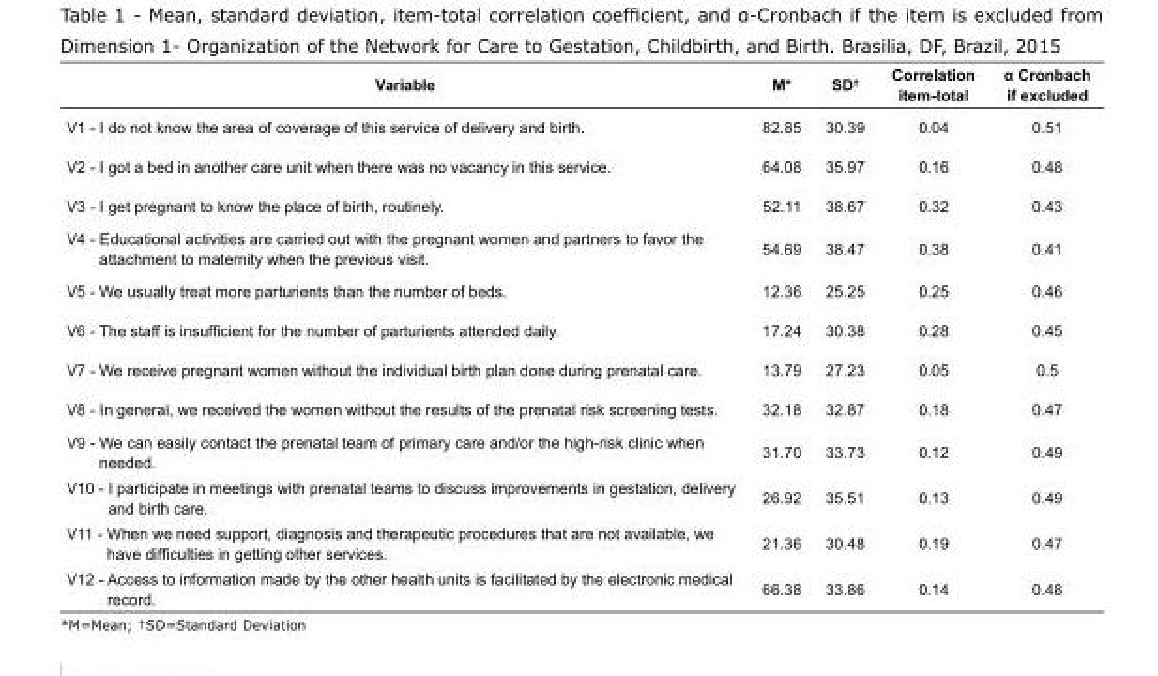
<table><tbody><tr><td>Variable</td><td>M*</td><td>SD<sup>†</sup></td><td>Correlation item-total</td><td>α Cronbach if excluded</td></tr><tr><td>V1 - I do not know the area of coverage of this service of delivery and birth.</td><td>82.85</td><td>30.39</td><td>0.04</td><td>0.51</td></tr><tr><td>V2 - I got a bed in another care unit when there was no vacancy in this service.</td><td>64.08</td><td>35.97</td><td>0.16</td><td>0.48</td></tr><tr><td>V3 - I get pregnant to know the place of birth, routinely.</td><td>52.11</td><td>38.67</td><td>0.32</td><td>0.43</td></tr><tr><td>V4 - Educational activities are carried out with the pregnant women and partners to favor the attachment to maternity when the previous visit.</td><td>54.69</td><td>38.47</td><td>0.38</td><td>0.41</td></tr><tr><td>V5 - We usually treat more parturients than the number of beds.</td><td>12.36</td><td>25.25</td><td>0.25</td><td>0.46</td></tr><tr><td>V6 - The staff is insufficient for the number of parturients attended daily.</td><td>17.24</td><td>30.38</td><td>0.28</td><td>0.45</td></tr><tr><td>V7 - We receive pregnant women without the individual birth plan done during prenatal care.</td><td>13.79</td><td>27.23</td><td>0.05</td><td>0.5</td></tr><tr><td>V8 - In general, we received the women without the results of the prenatal risk screening tests.</td><td>32.18</td><td>32.87</td><td>0.18</td><td>0.47</td></tr><tr><td>V9 - We can easily contact the prenatal team of primary care and/or the high-risk clinic when needed.</td><td>31.70</td><td>33.73</td><td>0.12</td><td>0.49</td></tr><tr><td>V10 - I participate in meetings with prenatal teams to discuss improvements in gestation, delivery and birth care.</td><td>26.92</td><td>35.51</td><td>0.13</td><td>0.49</td></tr><tr><td>V11 - When we need support, diagnosis and therapeutic procedures that are not available, we have difficulties in getting other services.</td><td>21.36</td><td>30.48</td><td>0.19</td><td>0.47</td></tr><tr><td>V12 - Access to information made by the other health units is facilitated by the electronic medical record.</td><td>66.38</td><td>33.86</td><td>0.14</td><td>0.48</td></tr></tbody></table>